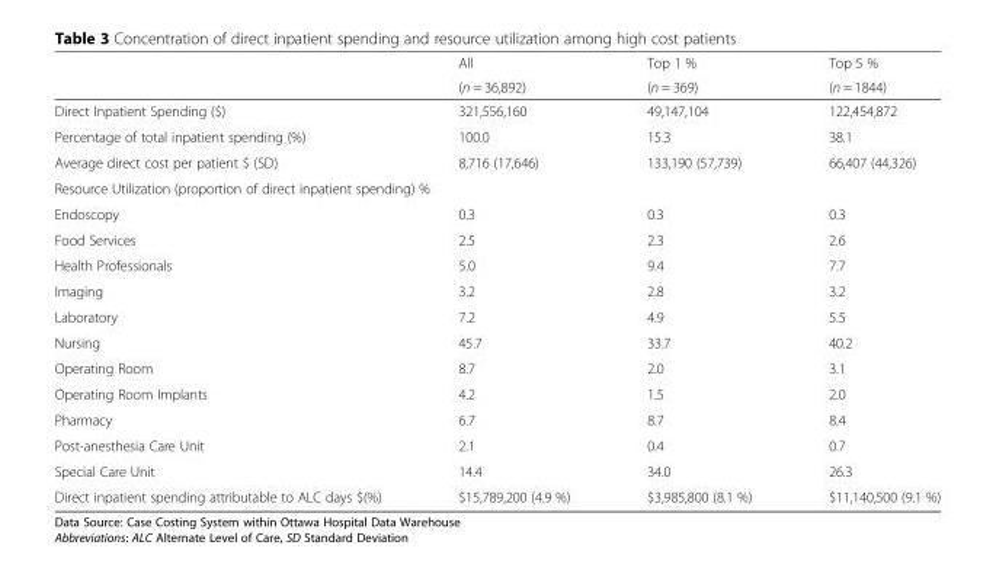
<table><thead><tr><td rowspan="2"></td><td rowspan="2">All (n = 36,892)</td><td rowspan="2">Top 1 % (n = 369)</td><td rowspan="2">Top 5 % (n = 1844)</td></tr><tr></tr></thead><tbody><tr><td>Direct Inpatient Spending ($)</td><td>321,556,160</td><td>49,147,104</td><td>122,454,872</td></tr><tr><td>Percentage of total inpatient spending (%)</td><td>100.0</td><td>15.3</td><td>38.1</td></tr><tr><td>Average direct cost per patient $ (SD)</td><td>8,716 (17,646)</td><td>133,190 (57,739)</td><td>66,407 (44,326)</td></tr><tr><td colspan="4">Resource Utilization (proportion of direct inpatient spending) %</td></tr><tr><td>Endoscopy</td><td>0.3</td><td>0.3</td><td>0.3</td></tr><tr><td>Food Services</td><td>2.5</td><td>2.3</td><td>2.6</td></tr><tr><td>Health Professionals</td><td>5.0</td><td>9.4</td><td>7.7</td></tr><tr><td>Imaging</td><td>3.2</td><td>2.8</td><td>3.2</td></tr><tr><td>Laboratory</td><td>7.2</td><td>4.9</td><td>5.5</td></tr><tr><td>Nursing</td><td>45.7</td><td>33.7</td><td>40.2</td></tr><tr><td>Operating Room</td><td>8.7</td><td>2.0</td><td>3.1</td></tr><tr><td>Operating Room Implants</td><td>4.2</td><td>1.5</td><td>2.0</td></tr><tr><td>Pharmacy</td><td>6.7</td><td>8.7</td><td>8.4</td></tr><tr><td>Post-anesthesia Care Unit</td><td>2.1</td><td>0.4</td><td>0.7</td></tr><tr><td>Special Care Unit</td><td>14.4</td><td>34.0</td><td>26.3</td></tr><tr><td>Direct inpatient spending attributable to ALC days $(%)</td><td>$15,789,200 (4.9 %)</td><td>$3,985,800 (8.1 %)</td><td>$11,140,500 (9.1 %)</td></tr></tbody></table>